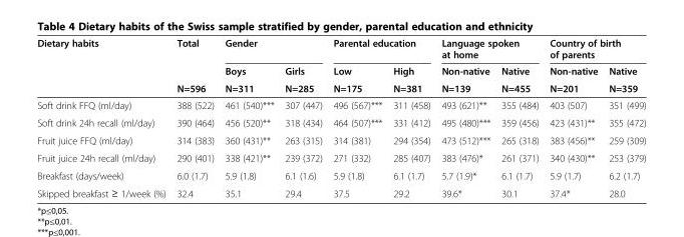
<table><thead><tr><td rowspan="2">Dietary habits</td><td rowspan="2">Total</td><td rowspan="2">Gender Boys</td><td rowspan="2">Girls</td><td colspan="2">Parental education</td><td colspan="2">Language spoken at home</td><td colspan="2">Country of birth of parents</td></tr><tr><td>Low</td><td>High</td><td>Non-native</td><td>Native</td><td>Non-native</td><td>Native</td></tr></thead><tbody><tr><td></td><td>N=596</td><td>N=311</td><td>N=285</td><td>N=175</td><td>N=381</td><td>N=139</td><td>N=455</td><td>N=201</td><td>N=359</td></tr><tr><td>Soft drink FFQ (ml/day)</td><td>388 (522)</td><td>461 (540)***</td><td>307 (447)</td><td>496 (567)***</td><td>311 (458)</td><td>493 (621)**</td><td>355 (484)</td><td>403 (507)</td><td>351 (499)</td></tr><tr><td>Soft drink 24h recall (ml/day)</td><td>390 (464)</td><td>456 (520)**</td><td>318 (434)</td><td>464 (507)***</td><td>331 (412)</td><td>495 (480)***</td><td>359 (456)</td><td>423 (431)**</td><td>355 (472)</td></tr><tr><td>Fruit juice FFQ (ml/day)</td><td>314 (383)</td><td>360 (431)**</td><td>263 (315)</td><td>314 (381)</td><td>294 (354)</td><td>473 (512)***</td><td>265 (318)</td><td>383 (456)**</td><td>259 (309)</td></tr><tr><td>Fruit juice 24h recall (ml/day)</td><td>290 (401)</td><td>338 (421)**</td><td>239 (372)</td><td>271 (332)</td><td>285 (407)</td><td>383 (476)*</td><td>261 (371)</td><td>340 (430)**</td><td>253 (379)</td></tr><tr><td>Breakfast (days/week)</td><td>6.0 (1.7)</td><td>5.9 (1.8)</td><td>6.1 (1.6)</td><td>5.9 (1.8)</td><td>6.1 (1.7)</td><td>5.7 (1.9)*</td><td>6.1 (1.7)</td><td>5.9 (1.7)</td><td>6.2 (1.7)</td></tr><tr><td>Skipped breakfast ≥ 1/week (%)</td><td>32.4</td><td>35.1</td><td>29.4</td><td>37.5</td><td>29.2</td><td>39.6*</td><td>30.1</td><td>37.4*</td><td>28.0</td></tr></tbody></table>